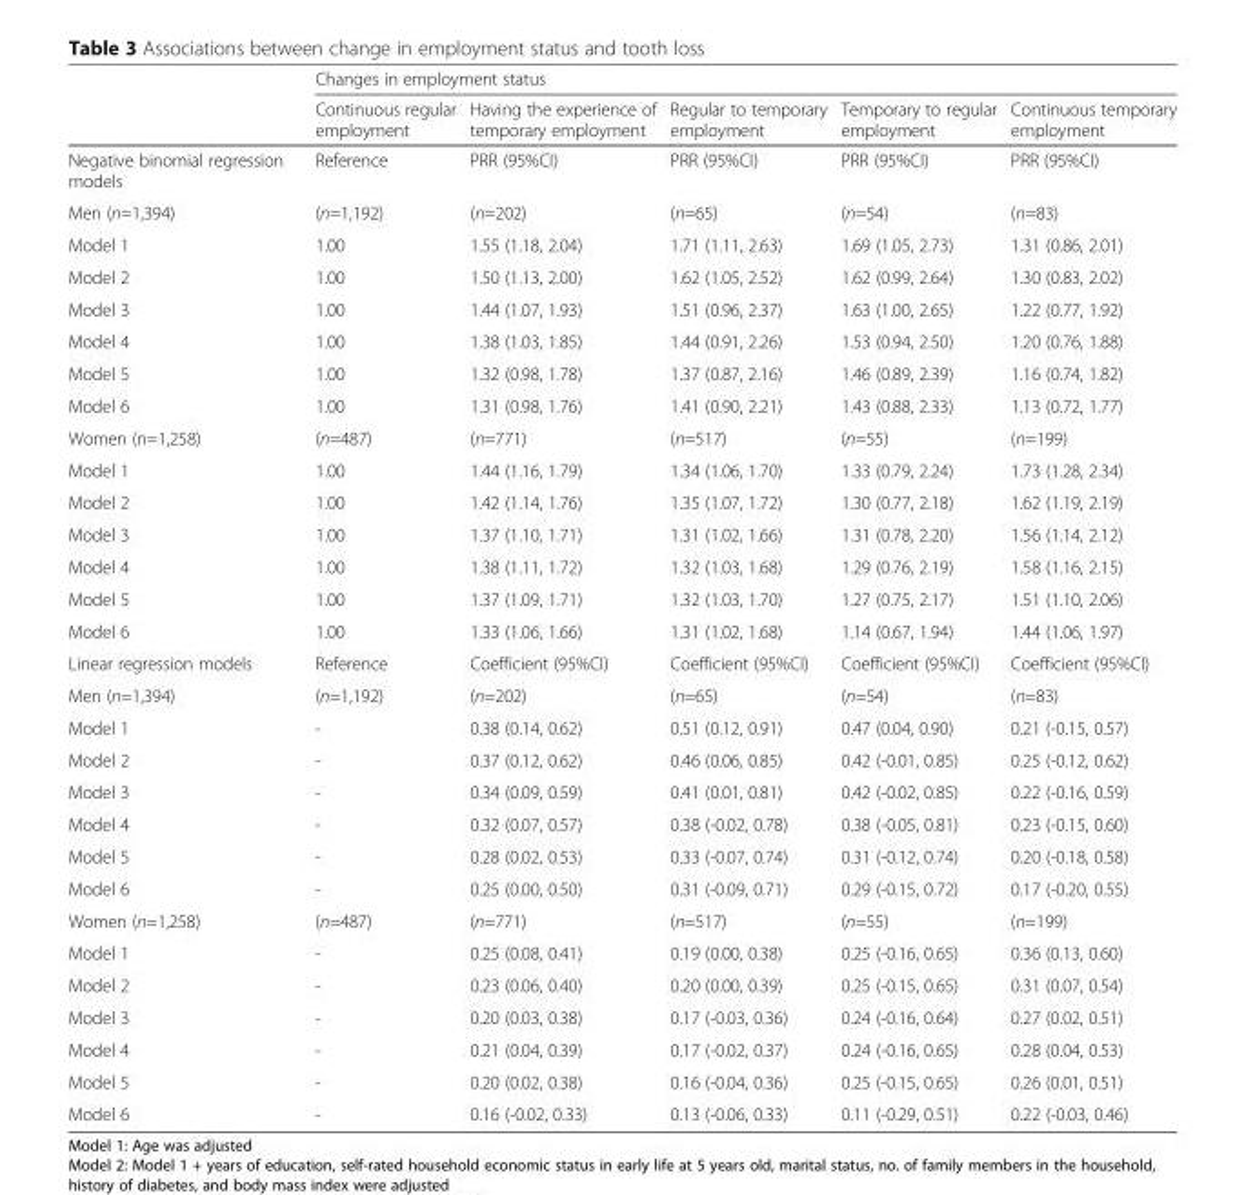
<table><thead><tr><td rowspan="2"></td><td colspan="5">Changes in employment status</td></tr><tr><td>Continuous regular employment</td><td>Having the experience of temporary employment</td><td>Regular to temporary employment</td><td>Temporary to regular employment</td><td>Continuous temporary employment</td></tr></thead><tbody><tr><td>Negative binomial regression models</td><td>Reference</td><td>PRR (95%CI)</td><td>PRR (95%CI)</td><td>PRR (95%CI)</td><td>PRR (95%CI)</td></tr><tr><td>Men (n=1,394)</td><td>(n=1,192)</td><td>(n=202)</td><td>(n=65)</td><td>(n=54)</td><td>(n=83)</td></tr><tr><td>Model 1</td><td>1.00</td><td>1.55 (1.18, 2.04)</td><td>1.71 (1.11, 2.63)</td><td>1.69 (1.05, 2.73)</td><td>1.31 (0.86, 2.01)</td></tr><tr><td>Model 2</td><td>1.00</td><td>1.50 (1.13, 2.00)</td><td>1.62 (1.05, 2.52)</td><td>1.62 (0.99, 2.64)</td><td>1.30 (0.83, 2.02)</td></tr><tr><td>Model 3</td><td>1.00</td><td>1.44 (1.07, 1.93)</td><td>1.51 (0.96, 2.37)</td><td>1.63 (1.00, 2.65)</td><td>1.22 (0.77, 1.92)</td></tr><tr><td>Model 4</td><td>1.00</td><td>1.38 (1.03, 1.85)</td><td>1.44 (0.91, 2.26)</td><td>1.53 (0.94, 2.50)</td><td>1.20 (0.76, 1.88)</td></tr><tr><td>Model 5</td><td>1.00</td><td>1.32 (0.98, 1.78)</td><td>1.37 (0.87, 2.16)</td><td>1.46 (0.89, 2.39)</td><td>1.16 (0.74, 1.82)</td></tr><tr><td>Model 6</td><td>1.00</td><td>1.31 (0.98, 1.76)</td><td>1.41 (0.90, 2.21)</td><td>1.43 (0.88, 2.33)</td><td>1.13 (0.72, 1.77)</td></tr><tr><td>Women (n=1,258)</td><td>(n=487)</td><td>(n=771)</td><td>(n=517)</td><td>(n=55)</td><td>(n=199)</td></tr><tr><td>Model 1</td><td>1.00</td><td>1.44 (1.16, 1.79)</td><td>1.34 (1.06, 1.70)</td><td>1.33 (0.79, 2.24)</td><td>1.73 (1.28, 2.34)</td></tr><tr><td>Model 2</td><td>1.00</td><td>1.42 (1.14, 1.76)</td><td>1.35 (1.07, 1.72)</td><td>1.30 (0.77, 2.18)</td><td>1.62 (1.19, 2.19)</td></tr><tr><td>Model 3</td><td>1.00</td><td>1.37 (1.10, 1.71)</td><td>1.31 (1.02, 1.66)</td><td>1.31 (0.78, 2.20)</td><td>1.56 (1.14, 2.12)</td></tr><tr><td>Model 4</td><td>1.00</td><td>1.38 (1.11, 1.72)</td><td>1.32 (1.03, 1.68)</td><td>1.29 (0.76, 2.19)</td><td>1.58 (1.16, 2.15)</td></tr><tr><td>Model 5</td><td>1.00</td><td>1.37 (1.09, 1.71)</td><td>1.32 (1.03, 1.70)</td><td>1.27 (0.75, 2.17)</td><td>1.51 (1.10, 2.06)</td></tr><tr><td>Model 6</td><td>1.00</td><td>1.33 (1.06, 1.66)</td><td>1.31 (1.02, 1.68)</td><td>1.14 (0.67, 1.94)</td><td>1.44 (1.06, 1.97)</td></tr><tr><td>Linear regression models</td><td>Reference</td><td>Coefficient (95%CI)</td><td>Coefficient (95%CI)</td><td>Coefficient (95%CI)</td><td>Coefficient (95%CI)</td></tr><tr><td>Men (n=1,394)</td><td>(n=1,192)</td><td>(n=202)</td><td>(n=65)</td><td>(n=54)</td><td>(n=83)</td></tr><tr><td>Model 1</td><td>-</td><td>0.38 (0.14, 0.62)</td><td>0.51 (0.12, 0.91)</td><td>0.47 (0.04, 0.90)</td><td>0.21 (-0.15, 0.57)</td></tr><tr><td>Model 2</td><td>-</td><td>0.37 (0.12, 0.62)</td><td>0.46 (0.06, 0.85)</td><td>0.42 (-0.01, 0.85)</td><td>0.25 (-0.12, 0.62)</td></tr><tr><td>Model 3</td><td>-</td><td>0.34 (0.09, 0.59)</td><td>0.41 (0.01, 0.81)</td><td>0.42 (-0.02, 0.85)</td><td>0.22 (-0.16, 0.59)</td></tr><tr><td>Model 4</td><td>-</td><td>0.32 (0.07, 0.57)</td><td>0.38 (-0.02, 0.78)</td><td>0.38 (-0.05, 0.81)</td><td>0.23 (-0.15, 0.60)</td></tr><tr><td>Model 5</td><td>-</td><td>0.28 (0.02, 0.53)</td><td>0.33 (-0.07, 0.74)</td><td>0.31 (-0.12, 0.74)</td><td>0.20 (-0.18, 0.58)</td></tr><tr><td>Model 6</td><td>-</td><td>0.25 (0.00, 0.50)</td><td>0.31 (-0.09, 0.71)</td><td>0.29 (-0.15, 0.72)</td><td>0.17 (-0.20, 0.55)</td></tr><tr><td>Women (n=1,258)</td><td>(n=487)</td><td>(n=771)</td><td>(n=517)</td><td>(n=55)</td><td>(n=199)</td></tr><tr><td>Model 1</td><td>-</td><td>0.25 (0.08, 0.41)</td><td>0.19 (0.00, 0.38)</td><td>0.25 (-0.16, 0.65)</td><td>0.36 (0.13, 0.60)</td></tr><tr><td>Model 2</td><td>-</td><td>0.23 (0.06, 0.40)</td><td>0.20 (0.00, 0.39)</td><td>0.25 (-0.15, 0.65)</td><td>0.31 (0.07, 0.54)</td></tr><tr><td>Model 3</td><td>-</td><td>0.20 (0.03, 0.38)</td><td>0.17 (-0.03, 0.36)</td><td>0.24 (-0.16, 0.64)</td><td>0.27 (0.02, 0.51)</td></tr><tr><td>Model 4</td><td>-</td><td>0.21 (0.04, 0.39)</td><td>0.17 (-0.02, 0.37)</td><td>0.24 (-0.16, 0.65)</td><td>0.28 (0.04, 0.53)</td></tr><tr><td>Model 5</td><td>-</td><td>0.20 (0.02, 0.38)</td><td>0.16 (-0.04, 0.36)</td><td>0.25 (-0.15, 0.65)</td><td>0.26 (0.01, 0.51)</td></tr><tr><td>Model 6</td><td>-</td><td>0.16 (-0.02, 0.33)</td><td>0.13 (-0.06, 0.33)</td><td>0.11 (-0.29, 0.51)</td><td>0.22 (-0.03, 0.46)</td></tr></tbody></table>